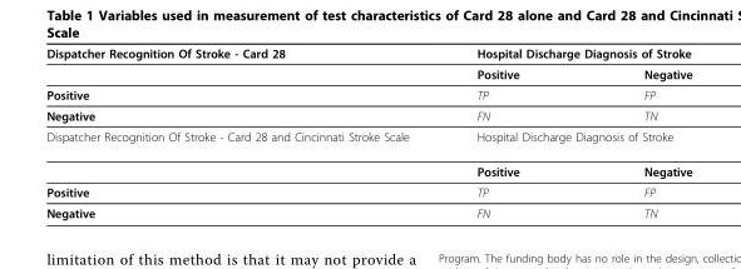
<table><thead><tr><td rowspan="2">Dispatcher Recognition Of Stroke - Card 28</td><td colspan="2">Hospital Discharge Diagnosis of Stroke</td></tr><tr><td>Positive</td><td>Negative</td></tr></thead><tbody><tr><td>Positive</td><td>TP</td><td>FP</td></tr><tr><td>Negative</td><td>FN</td><td>TN</td></tr><tr><td rowspan="2">Dispatcher Recognition Of Stroke - Card 28 and Cincinnati Stroke Scale</td><td colspan="2">Hospital Discharge Diagnosis of Stroke</td></tr><tr><td>Positive</td><td>Negative</td></tr><tr><td>Positive</td><td>TP</td><td>FP</td></tr><tr><td>Negative</td><td>FN</td><td>TN</td></tr></tbody></table>